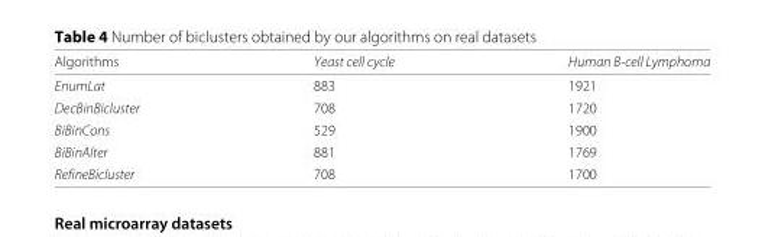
<table><thead><tr><td>Algorithms</td><td>Yeast cell cycle</td><td>Human B-cell Lymphoma</td></tr></thead><tbody><tr><td>EnumLat</td><td>883</td><td>1921</td></tr><tr><td>DecBinBicluster</td><td>708</td><td>1720</td></tr><tr><td>BiBinCons</td><td>529</td><td>1900</td></tr><tr><td>BiBinAlter</td><td>881</td><td>1769</td></tr><tr><td>RefineBicluster</td><td>708</td><td>1700</td></tr></tbody></table>